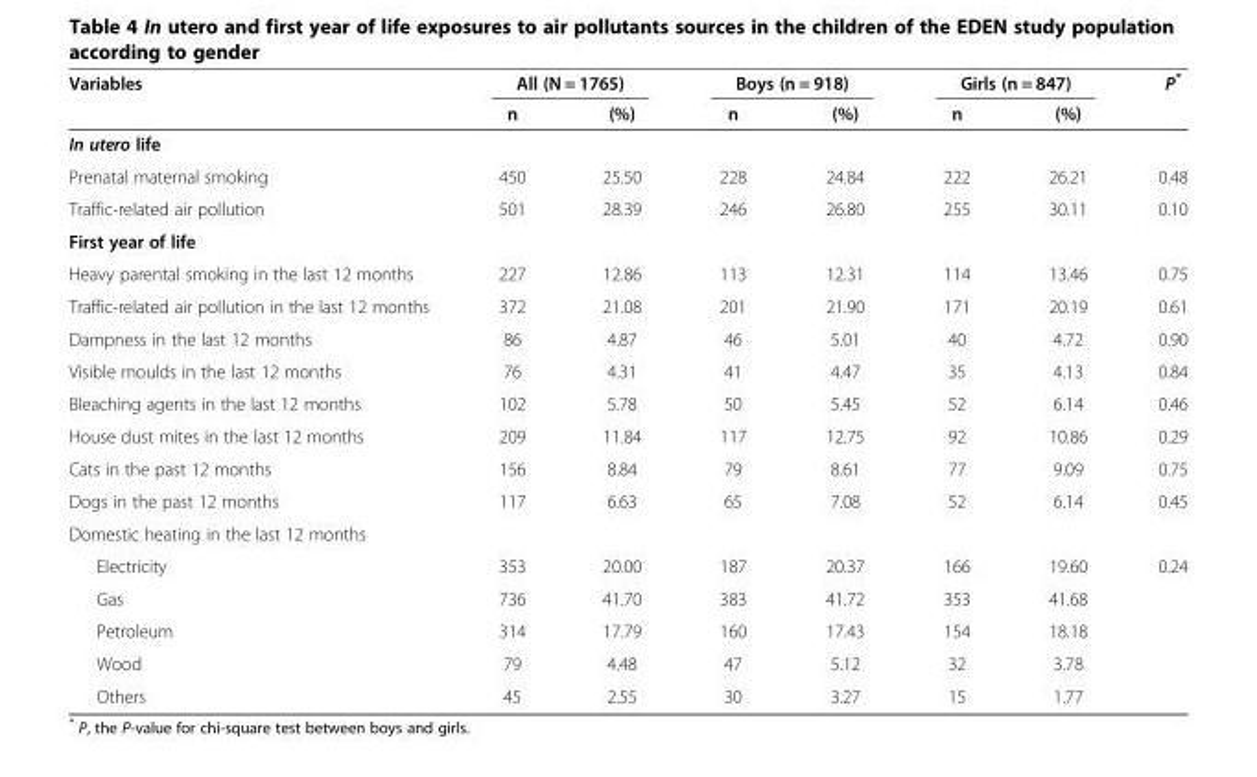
<table><thead><tr><td rowspan="2">Variables</td><td colspan="2">All (N = 1765)</td><td colspan="2">Boys (n = 918)</td><td colspan="2">Girls (n = 847)</td><td rowspan="2">P*</td></tr><tr><td>n</td><td>(%)</td><td>n</td><td>(%)</td><td>n</td><td>(%)</td></tr></thead><tbody><tr><td colspan="8">In utero life</td></tr><tr><td>Prenatal maternal smoking</td><td>450</td><td>25.50</td><td>228</td><td>24.84</td><td>222</td><td>26.21</td><td>0.48</td></tr><tr><td>Traffic-related air pollution</td><td>501</td><td>28.39</td><td>246</td><td>26.80</td><td>255</td><td>30.11</td><td>0.10</td></tr><tr><td colspan="8">First year of life</td></tr><tr><td>Heavy parental smoking in the last 12 months</td><td>227</td><td>12.86</td><td>113</td><td>12.31</td><td>114</td><td>13.46</td><td>0.75</td></tr><tr><td>Traffic-related air pollution in the last 12 months</td><td>372</td><td>21.08</td><td>201</td><td>21.90</td><td>171</td><td>20.19</td><td>0.61</td></tr><tr><td>Dampness in the last 12 months</td><td>86</td><td>4.87</td><td>46</td><td>5.01</td><td>40</td><td>4.72</td><td>0.90</td></tr><tr><td>Visible moulds in the last 12 months</td><td>76</td><td>4.31</td><td>41</td><td>4.47</td><td>35</td><td>4.13</td><td>0.84</td></tr><tr><td>Bleaching agents in the last 12 months</td><td>102</td><td>5.78</td><td>50</td><td>5.45</td><td>52</td><td>6.14</td><td>0.46</td></tr><tr><td>House dust mites in the last 12 months</td><td>209</td><td>11.84</td><td>117</td><td>12.75</td><td>92</td><td>10.86</td><td>0.29</td></tr><tr><td>Cats in the past 12 months</td><td>156</td><td>8.84</td><td>79</td><td>8.61</td><td>77</td><td>9.09</td><td>0.75</td></tr><tr><td>Dogs in the past 12 months</td><td>117</td><td>6.63</td><td>65</td><td>7.08</td><td>52</td><td>6.14</td><td>0.45</td></tr><tr><td colspan="8">Domestic heating in the last 12 months</td></tr><tr><td>Electricity</td><td>353</td><td>20.00</td><td>187</td><td>20.37</td><td>166</td><td>19.60</td><td>0.24</td></tr><tr><td>Gas</td><td>736</td><td>41.70</td><td>383</td><td>41.72</td><td>353</td><td>41.68</td><td></td></tr><tr><td>Petroleum</td><td>314</td><td>17.79</td><td>160</td><td>17.43</td><td>154</td><td>18.18</td><td></td></tr><tr><td>Wood</td><td>79</td><td>4.48</td><td>47</td><td>5.12</td><td>32</td><td>3.78</td><td></td></tr><tr><td>Others</td><td>45</td><td>2.55</td><td>30</td><td>3.27</td><td>15</td><td>1.77</td><td></td></tr></tbody></table>